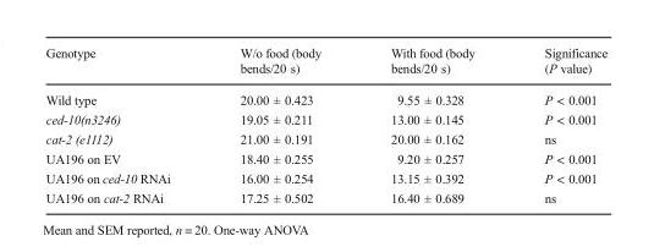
<table><thead><tr><td>Genotype</td><td>W/o food (body bends/20 s)</td><td>With food (body bends/20 s)</td><td>Significance (P value)</td></tr></thead><tbody><tr><td>Wild type</td><td>20.00 ± 0.423</td><td>9.55 ± 0.328</td><td>P &lt; 0.001</td></tr><tr><td>ced-10(n3246)</td><td>19.05 ± 0.211</td><td>13.00 ± 0.145</td><td>P &lt; 0.001</td></tr><tr><td>cat-2 (e1112)</td><td>21.00 ± 0.191</td><td>20.00 ± 0.162</td><td>ns</td></tr><tr><td>UA196 on EV</td><td>18.40 ± 0.255</td><td>9.20 ± 0.257</td><td>P &lt; 0.001</td></tr><tr><td>UA196 on ced-10 RNAi</td><td>16.00 ± 0.254</td><td>13.15 ± 0.392</td><td>P &lt; 0.001</td></tr><tr><td>UA196 on cat-2 RNAi</td><td>17.25 ± 0.502</td><td>16.40 ± 0.689</td><td>ns</td></tr></tbody></table>